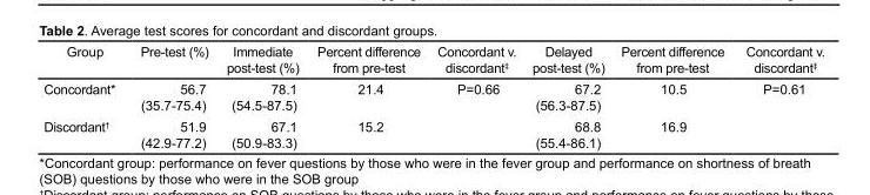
<table><thead><tr><td>Group</td><td>Pre-test (%)</td><td>Immediate post-test (%)</td><td>Percent difference from pre-test</td><td>Concordant v. discordant‡</td><td>Delayed post-test (%)</td><td>Percent difference from pre-test</td><td>Concordant v. discordant‡</td></tr></thead><tbody><tr><td>Concordant*</td><td>56.7 (35.7-75.4)</td><td>78.1 (54.5-87.5)</td><td>21.4</td><td>P=0.66</td><td>67.2 (56.3-87.5)</td><td>10.5</td><td>P=0.61</td></tr><tr><td>Discordant†</td><td>51.9 (42.9-77.2)</td><td>67.1 (50.9-83.3)</td><td>15.2</td><td></td><td>68.8 (55.4-86.1)</td><td>16.9</td><td></td></tr></tbody></table>